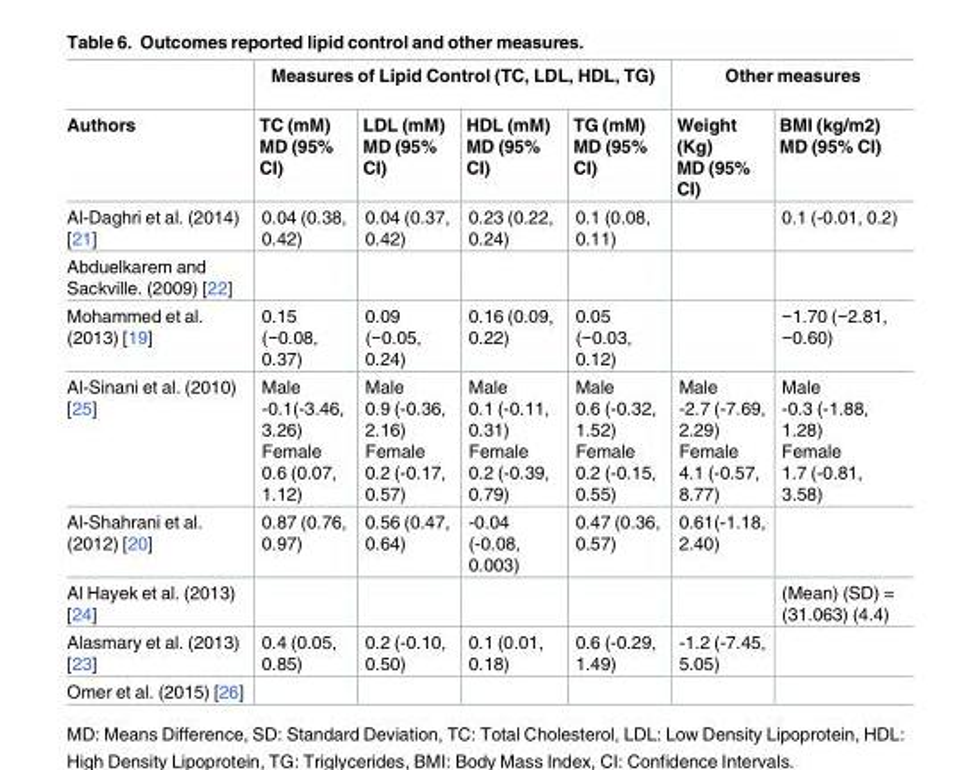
<table><thead><tr><td rowspan="2">Authors</td><td colspan="4">Measures of Lipid Control (TC, LDL, HDL, TG)</td><td colspan="2">Other measures</td></tr><tr><td>TC (mM) MD (95% CI)</td><td>LDL (mM) MD (95% CI)</td><td>HDL (mM) MD (95% CI)</td><td>TG (mM) MD (95% CI)</td><td>Weight (Kg) MD (95% CI)</td><td>BMI (kg/m2) MD (95% CI)</td></tr></thead><tbody><tr><td>Al-Daghri et al. (2014) [21]</td><td>0.04 (0.38, 0.42)</td><td>0.04 (0.37, 0.42)</td><td>0.23 (0.22, 0.24)</td><td>0.1 (0.08, 0.11)</td><td></td><td>0.1 (-0.01, 0.2)</td></tr><tr><td colspan="7">Abduelkarem and Sackville. (2009) [22]</td></tr><tr><td>Mohammed et al. (2013) [19]</td><td>0.15 (−0.08, 0.37)</td><td>0.09 (−0.05, 0.24)</td><td>0.16 (0.09, 0.22)</td><td>0.05 (−0.03, 0.12)</td><td></td><td>−1.70 (−2.81, −0.60)</td></tr><tr><td>Al-Sinani et al. (2010) [25]</td><td>Male -0.1(-3.46, 3.26) Female 0.6 (0.07, 1.12)</td><td>Male 0.9 (-0.36, 2.16) Female 0.2 (-0.17, 0.57)</td><td>Male 0.1 (-0.11, 0.31) Female 0.2 (-0.39, 0.79)</td><td>Male 0.6 (-0.32, 1.52) Female 0.2 (-0.15, 0.55)</td><td>Male -2.7 (-7.69, 2.29) Female 4.1 (-0.57, 8.77)</td><td>Male -0.3 (-1.88, 1.28) Female 1.7 (-0.81, 3.58)</td></tr><tr><td>Al-Shahrani et al. (2012) [20]</td><td>0.87 (0.76, 0.97)</td><td>0.56 (0.47, 0.64)</td><td>-0.04 (-0.08, 0.003)</td><td>0.47 (0.36, 0.57)</td><td>0.61(-1.18, 2.40)</td><td></td></tr><tr><td>Al Hayek et al. (2013) [24]</td><td></td><td></td><td></td><td></td><td></td><td>(Mean) (SD) = (31.063) (4.4)</td></tr><tr><td>Alasmary et al. (2013) [23]</td><td>0.4 (0.05, 0.85)</td><td>0.2 (-0.10, 0.50)</td><td>0.1 (0.01, 0.18)</td><td>0.6 (-0.29, 1.49)</td><td>-1.2 (-7.45, 5.05)</td><td></td></tr><tr><td>Omer et al. (2015) [26]</td><td></td><td></td><td></td><td></td><td></td><td></td></tr></tbody></table>